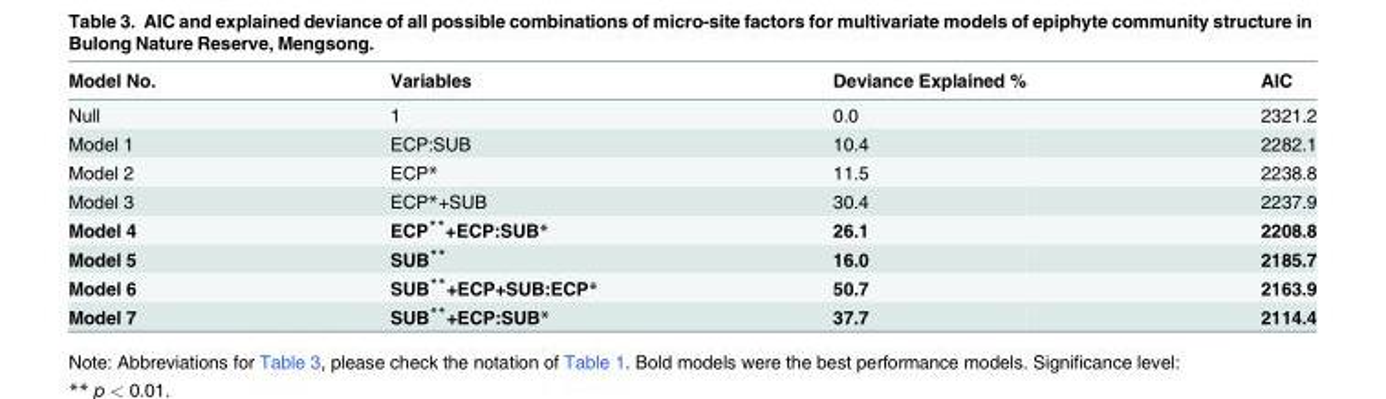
<table><thead><tr><td>Model No.</td><td>Variables</td><td>Deviance Explained %</td><td>AIC</td></tr></thead><tbody><tr><td>Null</td><td>1</td><td>0.0</td><td>2321.2</td></tr><tr><td>Model 1</td><td>ECP:SUB</td><td>10.4</td><td>2282.1</td></tr><tr><td>Model 2</td><td>ECP*</td><td>11.5</td><td>2238.8</td></tr><tr><td>Model 3</td><td>ECP*+SUB</td><td>30.4</td><td>2237.9</td></tr><tr><td>Model 4</td><td>ECP**+ECP:SUB*</td><td>26.1</td><td>2208.8</td></tr><tr><td>Model 5</td><td>SUB**</td><td>16.0</td><td>2185.7</td></tr><tr><td>Model 6</td><td>SUB**+ECP+SUB:ECP*</td><td>50.7</td><td>2163.9</td></tr><tr><td>Model 7</td><td>SUB**+ECP:SUB*</td><td>37.7</td><td>2114.4</td></tr></tbody></table>